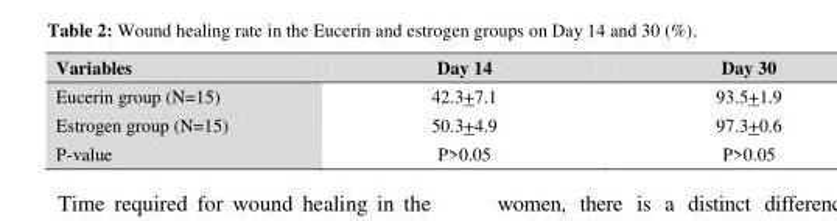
<table><thead><tr><td>Variables</td><td>Day 14</td><td>Day 30</td></tr></thead><tbody><tr><td>Eucerin group (N=15)</td><td>42.3+7.1</td><td>93.5+1.9</td></tr><tr><td>Estrogen group (N=15)</td><td>50.3+4.9</td><td>97.3+0.6</td></tr><tr><td>P-value</td><td>P&gt;0.05</td><td>P&gt;0.05</td></tr></tbody></table>